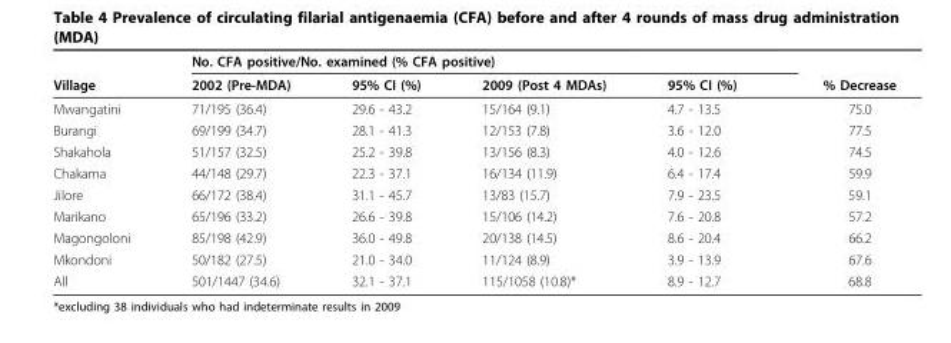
<table><thead><tr><td rowspan="2">Village</td><td colspan="3">No. CFA positive/No. examined (% CFA positive)</td><td rowspan="2">95% CI (%)</td><td rowspan="2">% Decrease</td></tr><tr><td>2002 (Pre-MDA)</td><td>95% CI (%)</td><td>2009 (Post 4 MDAs)</td></tr></thead><tbody><tr><td>Mwangatini</td><td>71/195 (36.4)</td><td>29.6 - 43.2</td><td>15/164 (9.1)</td><td>4.7 - 13.5</td><td>75.0</td></tr><tr><td>Burangi</td><td>69/199 (34.7)</td><td>28.1 - 41.3</td><td>12/153 (7.8)</td><td>3.6 - 12.0</td><td>77.5</td></tr><tr><td>Shakahola</td><td>51/157 (32.5)</td><td>25.2 - 39.8</td><td>13/156 (8.3)</td><td>4.0 - 12.6</td><td>74.5</td></tr><tr><td>Chakama</td><td>44/148 (29.7)</td><td>22.3 - 37.1</td><td>16/134 (11.9)</td><td>6.4 - 17.4</td><td>59.9</td></tr><tr><td>Jilore</td><td>66/172 (38.4)</td><td>31.1 - 45.7</td><td>13/83 (15.7)</td><td>7.9 - 23.5</td><td>59.1</td></tr><tr><td>Marikano</td><td>65/196 (33.2)</td><td>26.6 - 39.8</td><td>15/106 (14.2)</td><td>7.6 - 20.8</td><td>57.2</td></tr><tr><td>Magongoloni</td><td>85/198 (42.9)</td><td>36.0 - 49.8</td><td>20/138 (14.5)</td><td>8.6 - 20.4</td><td>66.2</td></tr><tr><td>Mkondoni</td><td>50/182 (27.5)</td><td>21.0 - 34.0</td><td>11/124 (8.9)</td><td>3.9 - 13.9</td><td>67.6</td></tr><tr><td>All</td><td>501/1447 (34.6)</td><td>32.1 - 37.1</td><td>115/1058 (10.8)*</td><td>8.9 - 12.7</td><td>68.8</td></tr></tbody></table>